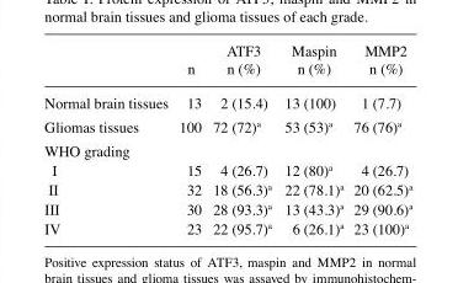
<table><thead><tr><td></td><td>n</td><td>ATF3 n (%)</td><td>Maspin n (%)</td><td>MMP2 n (%)</td></tr></thead><tbody><tr><td>Normal brain tissues</td><td>13</td><td>2 (15.4)</td><td>13 (100)</td><td>1 (7.7)</td></tr><tr><td>Gliomas tissues</td><td>100</td><td>72 (72)<sup>a</sup></td><td>53 (53)<sup>a</sup></td><td>76 (76)<sup>a</sup></td></tr><tr><td colspan="5">WHO grading</td></tr><tr><td>I</td><td>15</td><td>4 (26.7)</td><td>12 (80)<sup>a</sup></td><td>4 (26.7)</td></tr><tr><td>II</td><td>32</td><td>18 (56.3)<sup>a</sup></td><td>22 (78.1)<sup>a</sup></td><td>20 (62.5)<sup>a</sup></td></tr><tr><td>III</td><td>30</td><td>28 (93.3)<sup>a</sup></td><td>13 (43.3)<sup>a</sup></td><td>29 (90.6)<sup>a</sup></td></tr><tr><td>IV</td><td>23</td><td>22 (95.7)<sup>a</sup></td><td>6 (26.1)<sup>a</sup></td><td>23 (100)<sup>a</sup></td></tr></tbody></table>